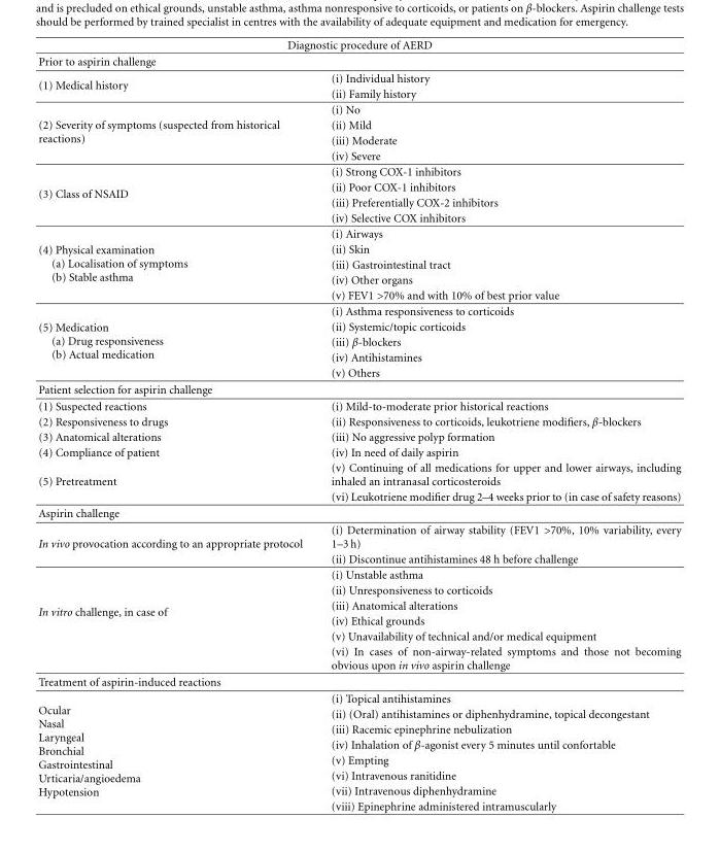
<table><thead><tr><td colspan="2">Diagnostic procedure of AERD</td></tr><tr><td>Prior to aspirin challenge</td><td></td></tr></thead><tbody><tr><td rowspan="2">(1) Medical history</td><td>(i) Individual history</td></tr><tr><td>(ii) Family history</td></tr><tr><td rowspan="4">(2) Severity of symptoms (suspected from historical reactions)</td><td>(i) No</td></tr><tr><td>(ii) Mild</td></tr><tr><td>(iii) Moderate</td></tr><tr><td>(iv) Severe</td></tr><tr><td rowspan="4">(3) Class of NSAID</td><td>(i) Strong COX-1 inhibitors</td></tr><tr><td>(ii) Poor COX-1 inhibitors</td></tr><tr><td>(iii) Preferentially COX-2 inhibitors</td></tr><tr><td>(iv) Selective COX inhibitors</td></tr><tr><td rowspan="5">(4) Physical examination (a) Localisation of symptoms (b) Stable asthma</td><td>(i) Airways</td></tr><tr><td>(ii) Skin</td></tr><tr><td>(iii) Gastrointestinal tract</td></tr><tr><td>(iv) Other organs</td></tr><tr><td>(v) FEV1 &gt;70% and with 10% of best prior value</td></tr><tr><td rowspan="5">(5) Medication (a) Drug responsiveness (b) Actual medication</td><td>(i) Asthma responsiveness to corticoids</td></tr><tr><td>(ii) Systemic/topic corticoids</td></tr><tr><td>(iii) β-blockers</td></tr><tr><td>(iv) Antihistamines</td></tr><tr><td>(v) Others</td></tr><tr><td colspan="2">Patient selection for aspirin challenge</td></tr><tr><td>(1) Suspected reactions</td><td>(i) Mild-to-moderate prior historical reactions</td></tr><tr><td>(2) Responsiveness to drugs</td><td>(ii) Responsiveness to corticoids, leukotriene modifiers, β-blockers</td></tr><tr><td>(3) Anatomical alterations</td><td>(iii) No aggressive polyp formation</td></tr><tr><td>(4) Compliance of patient</td><td>(iv) In need of daily aspirin</td></tr><tr><td rowspan="2">(5) Pretreatment</td><td>(v) Continuing of all medications for upper and lower airways, including inhaled an intranasal corticosteroids</td></tr><tr><td>(vi) Leukotriene modifier drug 2–4 weeks prior to (in case of safety reasons)</td></tr><tr><td colspan="2">Aspirin challenge</td></tr><tr><td rowspan="2">In vivo provocation according to an appropriate protocol</td><td>(i) Determination of airway stability (FEV1 &gt;70%, 10% variability, every 1–3 h)</td></tr><tr><td>(ii) Discontinue antihistamines 48 h before challenge</td></tr><tr><td rowspan="6">In vitro challenge, in case of</td><td>(i) Unstable asthma</td></tr><tr><td>(ii) Unresponsiveness to corticoids</td></tr><tr><td>(iii) Anatomical alterations</td></tr><tr><td>(iv) Ethical grounds</td></tr><tr><td>(v) Unavailability of technical and/or medical equipment</td></tr><tr><td>(vi) In cases of non-airway-related symptoms and those not becoming obvious upon in vivo aspirin challenge</td></tr><tr><td colspan="2">Treatment of aspirin-induced reactions</td></tr><tr><td rowspan="8">Ocular Nasal Laryngeal Bronchial Gastrointestinal Urticaria/angioedema Hypotension</td><td>(i) Topical antihistamines</td></tr><tr><td>(ii) (Oral) antihistamines or diphenhydramine, topical decongestant</td></tr><tr><td>(iii) Racemic epinephrine nebulization</td></tr><tr><td>(iv) Inhalation of β-agonist every 5 minutes until confortable</td></tr><tr><td>(v) Empting</td></tr><tr><td>(vi) Intravenous ranitidine</td></tr><tr><td>(vii) Intravenous diphenhydramine</td></tr><tr><td>(viii) Epinephrine administered intramuscularly</td></tr></tbody></table>